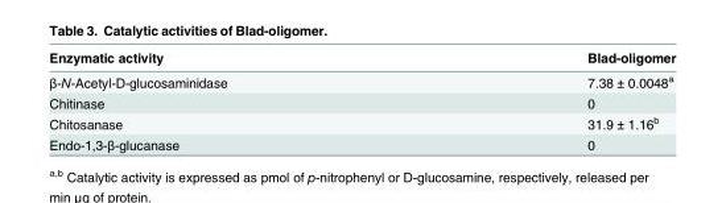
<table><thead><tr><td>Enzymatic activity</td><td>Blad-oligomer</td></tr></thead><tbody><tr><td>β-N-Acetyl-D-glucosaminidase</td><td>7.38 ± 0.0048<sup>a</sup></td></tr><tr><td>Chitinase</td><td>0</td></tr><tr><td>Chitosanase</td><td>31.9 ± 1.16<sup>b</sup></td></tr><tr><td>Endo-1,3-β-glucanase</td><td>0</td></tr></tbody></table>